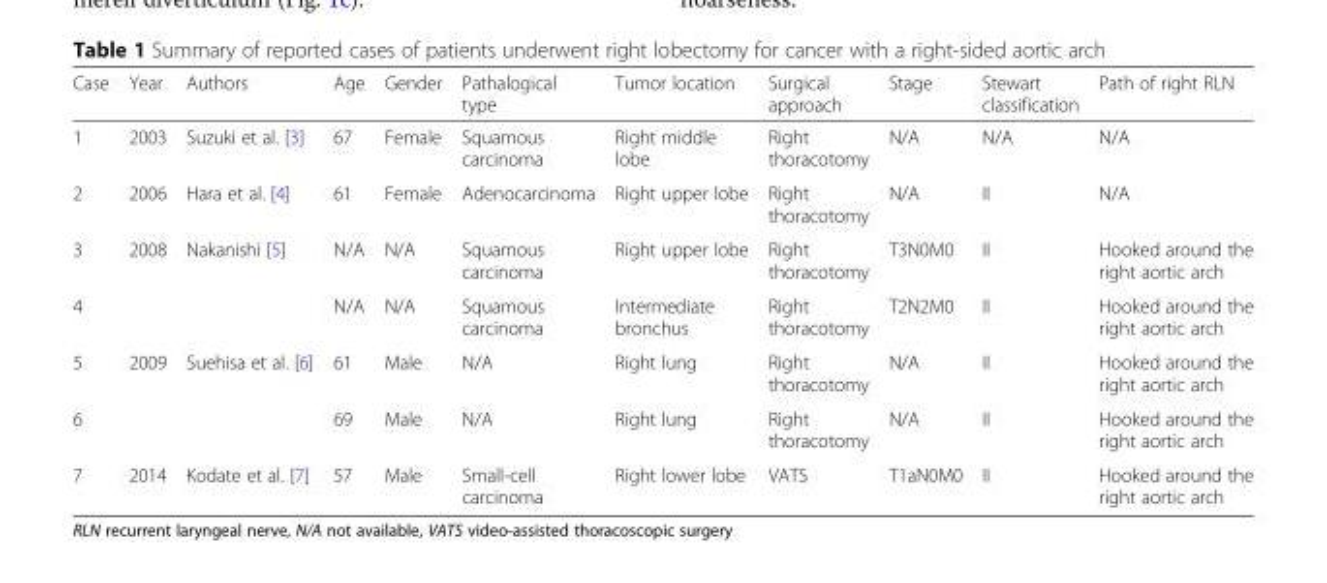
<table><thead><tr><td>Case</td><td>Year</td><td>Authors</td><td>Age</td><td>Gender</td><td>Pathalogical type</td><td>Tumor location</td><td>Surgical approach</td><td>Stage</td><td>Stewart classification</td><td>Path of right RLN</td></tr></thead><tbody><tr><td>1</td><td>2003</td><td>Suzuki et al. [3]</td><td>67</td><td>Female</td><td>Squamous carcinoma</td><td>Right middle lobe</td><td>Right thoracotomy</td><td>N/A</td><td>N/A</td><td>N/A</td></tr><tr><td>2</td><td>2006</td><td>Hara et al. [4]</td><td>61</td><td>Female</td><td>Adenocarcinoma</td><td>Right upper lobe</td><td>Right thoracotomy</td><td>N/A</td><td>II</td><td>N/A</td></tr><tr><td>3</td><td rowspan="2">2008</td><td rowspan="2">Nakanishi [5]</td><td>N/A</td><td>N/A</td><td>Squamous carcinoma</td><td>Right upper lobe</td><td>Right thoracotomy</td><td>T3N0M0</td><td>II</td><td>Hooked around the right aortic arch</td></tr><tr><td>4</td><td>N/A</td><td>N/A</td><td>Squamous carcinoma</td><td>Intermediate bronchus</td><td>Right thoracotomy</td><td>T2N2M0</td><td>II</td><td>Hooked around the right aortic arch</td></tr><tr><td>5</td><td rowspan="2">2009</td><td rowspan="2">Suehisa et al. [6]</td><td>61</td><td>Male</td><td>N/A</td><td>Right lung</td><td>Right thoracotomy</td><td>N/A</td><td>II</td><td>Hooked around the right aortic arch</td></tr><tr><td>6</td><td>69</td><td>Male</td><td>N/A</td><td>Right lung</td><td>Right thoracotomy</td><td>N/A</td><td>II</td><td>Hooked around the right aortic arch</td></tr><tr><td>7</td><td>2014</td><td>Kodate et al. [7]</td><td>57</td><td>Male</td><td>Small-cell carcinoma</td><td>Right lower lobe</td><td>VATS</td><td>T1aN0M0</td><td>II</td><td>Hooked around the right aortic arch</td></tr></tbody></table>